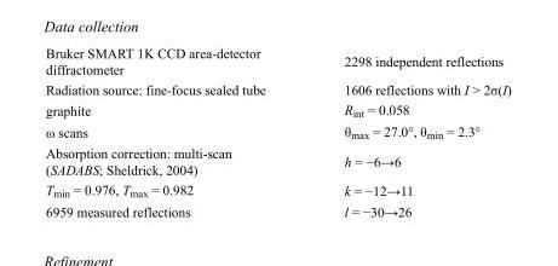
<table><tbody><tr><td>Bruker SMART 1K CCD area-detector diffractometer</td><td>2298 independent reflections</td></tr><tr><td>Radiation source: fine-focus sealed tube</td><td>1606 reflections with I &gt; 2σ(I)</td></tr><tr><td>graphite</td><td>R<sub>int</sub> = 0.058</td></tr><tr><td>ω scans</td><td>θ<sub>max</sub> = 27.0°, θ<sub>min</sub> = 2.3°</td></tr><tr><td>Absorption correction: multi-scan (SADABS; Sheldrick, 2004)</td><td>h = −6→6</td></tr><tr><td>T<sub>min</sub> = 0.976, T<sub>max</sub> = 0.982</td><td>k = −12→11</td></tr><tr><td>6959 measured reflections</td><td>l = −30→26</td></tr></tbody></table>